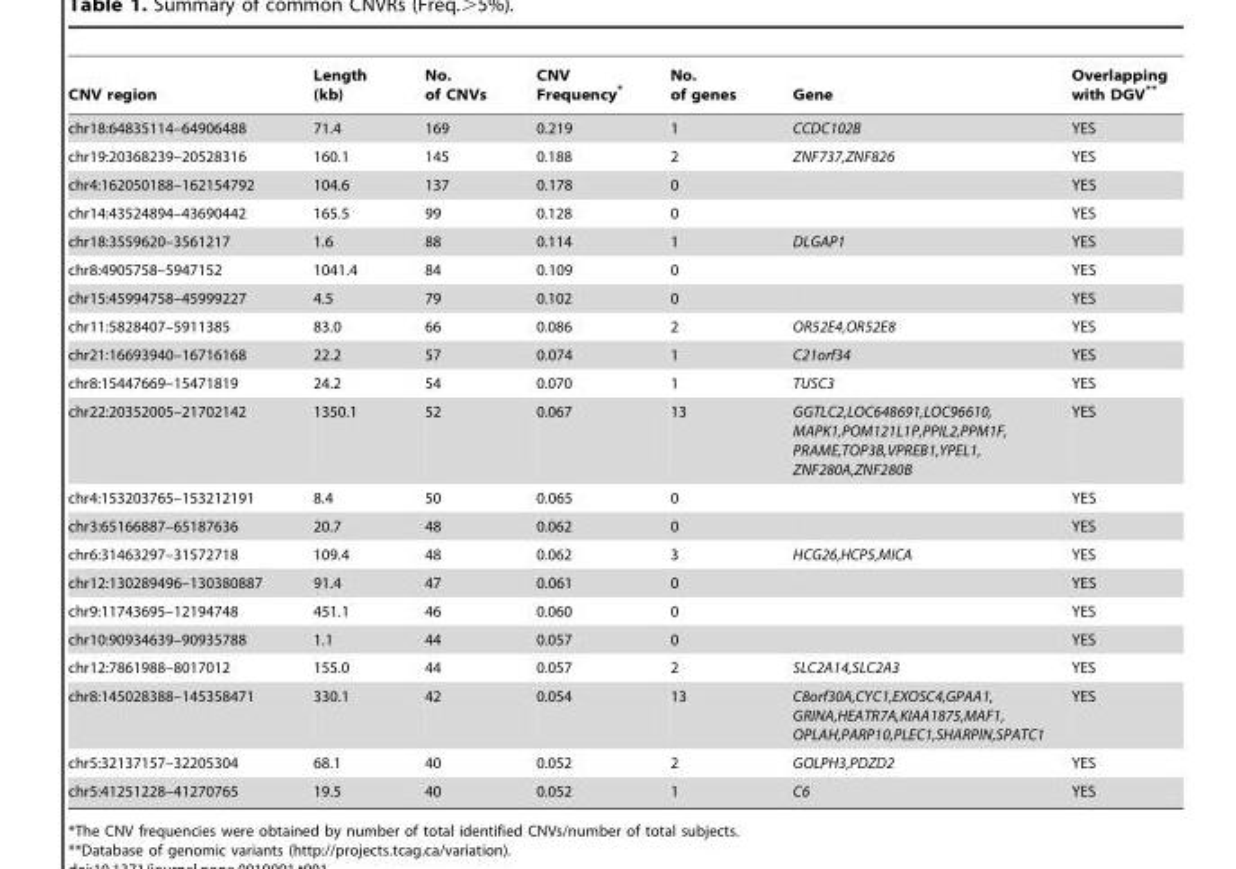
<table><thead><tr><td>CNV region</td><td>Length (kb)</td><td>No. of CNVs</td><td>CNV Frequency*</td><td>No. of genes</td><td>Gene</td><td>Overlapping with DGV**</td></tr></thead><tbody><tr><td>chr18:64835114–64906488</td><td>71.4</td><td>169</td><td>0.219</td><td>1</td><td>CCDC102B</td><td>YES</td></tr><tr><td>chr19:20368239–20528316</td><td>160.1</td><td>145</td><td>0.188</td><td>2</td><td>ZNF737,ZNF826</td><td>YES</td></tr><tr><td>chr4:162050188–162154792</td><td>104.6</td><td>137</td><td>0.178</td><td>0</td><td></td><td>YES</td></tr><tr><td>chr14:43524894–43690442</td><td>165.5</td><td>99</td><td>0.128</td><td>0</td><td></td><td>YES</td></tr><tr><td>chr18:3559620–3561217</td><td>1.6</td><td>88</td><td>0.114</td><td>1</td><td>DLGAP1</td><td>YES</td></tr><tr><td>chr8:4905758–5947152</td><td>1041.4</td><td>84</td><td>0.109</td><td>0</td><td></td><td>YES</td></tr><tr><td>chr15:45994758–45999227</td><td>4.5</td><td>79</td><td>0.102</td><td>0</td><td></td><td>YES</td></tr><tr><td>chr11:5828407–5911385</td><td>83.0</td><td>66</td><td>0.086</td><td>2</td><td>OR52E4,OR52E8</td><td>YES</td></tr><tr><td>chr21:16693940–16716168</td><td>22.2</td><td>57</td><td>0.074</td><td>1</td><td>C21orf34</td><td>YES</td></tr><tr><td>chr8:15447669–15471819</td><td>24.2</td><td>54</td><td>0.070</td><td>1</td><td>TUSC3</td><td>YES</td></tr><tr><td>chr22:20352005–21702142</td><td>1350.1</td><td>52</td><td>0.067</td><td>13</td><td>GGTLC2,LOC648691,LOC96610, MAPK1,POM121L1P,PPIL2,PPM1F, PRAME,TOP3B,VPREB1,YPEL1, ZNF280A,ZNF280B</td><td>YES</td></tr><tr><td>chr4:153203765–153212191</td><td>8.4</td><td>50</td><td>0.065</td><td>0</td><td></td><td>YES</td></tr><tr><td>chr3:65166887–65187636</td><td>20.7</td><td>48</td><td>0.062</td><td>0</td><td></td><td>YES</td></tr><tr><td>chr6:31463297–31572718</td><td>109.4</td><td>48</td><td>0.062</td><td>3</td><td>HCG26,HCP5,MICA</td><td>YES</td></tr><tr><td>chr12:130289496–130380887</td><td>91.4</td><td>47</td><td>0.061</td><td>0</td><td></td><td>YES</td></tr><tr><td>chr9:11743695–12194748</td><td>451.1</td><td>46</td><td>0.060</td><td>0</td><td></td><td>YES</td></tr><tr><td>chr10:90934639–90935788</td><td>1.1</td><td>44</td><td>0.057</td><td>0</td><td></td><td>YES</td></tr><tr><td>chr12:7861988–8017012</td><td>155.0</td><td>44</td><td>0.057</td><td>2</td><td>SLC2A14,SLC2A3</td><td>YES</td></tr><tr><td>chr8:145028388–145358471</td><td>330.1</td><td>42</td><td>0.054</td><td>13</td><td>C8orf30A,CYC1,EXOSC4,GPAA1, GRINA,HEATR7A,KIAA1875,MAF1, OPLAH,PARP10,PLEC1,SHARPIN,SPATC1</td><td>YES</td></tr><tr><td>chr5:32137157–32205304</td><td>68.1</td><td>40</td><td>0.052</td><td>2</td><td>GOLPH3,PDZD2</td><td>YES</td></tr><tr><td>chr5:41251228–41270765</td><td>19.5</td><td>40</td><td>0.052</td><td>1</td><td>C6</td><td>YES</td></tr></tbody></table>